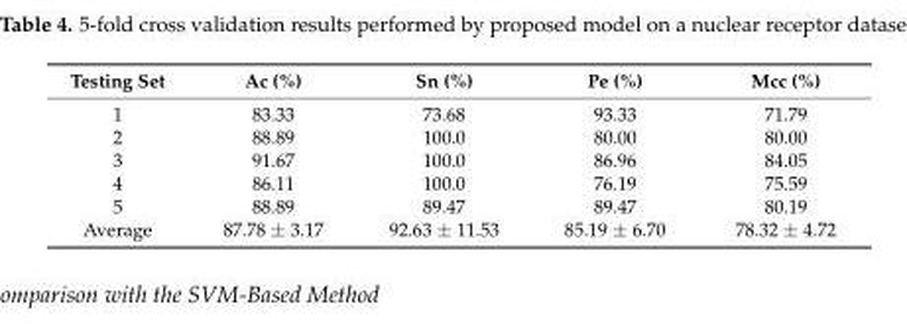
<table><thead><tr><td>Testing Set</td><td>Ac (%)</td><td>Sn (%)</td><td>Pe (%)</td><td>Mcc (%)</td></tr></thead><tbody><tr><td>1</td><td>83.33</td><td>73.68</td><td>93.33</td><td>71.79</td></tr><tr><td>2</td><td>88.89</td><td>100.0</td><td>80.00</td><td>80.00</td></tr><tr><td>3</td><td>91.67</td><td>100.0</td><td>86.96</td><td>84.05</td></tr><tr><td>4</td><td>86.11</td><td>100.0</td><td>76.19</td><td>75.59</td></tr><tr><td>5</td><td>88.89</td><td>89.47</td><td>89.47</td><td>80.19</td></tr><tr><td>Average</td><td>87.78 ± 3.17</td><td>92.63 ± 11.53</td><td>85.19 ± 6.70</td><td>78.32 ± 4.72</td></tr></tbody></table>